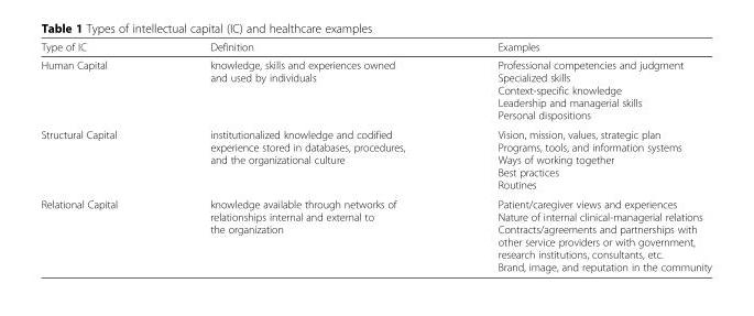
<table><thead><tr><td>Type of IC</td><td>Definition</td><td>Examples</td></tr></thead><tbody><tr><td>Human Capital</td><td>knowledge, skills and experiences owned and used by individuals</td><td>Professional competencies and judgment Specialized skills Context-specific knowledge Leadership and managerial skills Personal dispositions</td></tr><tr><td>Structural Capital</td><td>institutionalized knowledge and codified experience stored in databases, procedures, and the organizational culture</td><td>Vision, mission, values, strategic plan Programs, tools, and information systems Ways of working together Best practices Routines</td></tr><tr><td>Relational Capital</td><td>knowledge available through networks of relationships internal and external to the organization</td><td>Patient/caregiver views and experiences Nature of internal clinical-managerial relations Contracts/agreements and partnerships with other service providers or with government, research institutions, consultants, etc. Brand, image, and reputation in the community</td></tr></tbody></table>